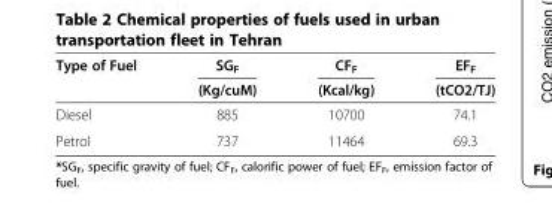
<table><thead><tr><td rowspan="2">Type of Fuel</td><td rowspan="2">SG<sub>F</sub> (Kg/cuM)</td><td rowspan="2">CF<sub>F</sub> (Kcal/kg)</td><td rowspan="2">EF<sub>F</sub> (tCO2/TJ)</td></tr><tr></tr></thead><tbody><tr><td>Diesel</td><td>885</td><td>10700</td><td>74.1</td></tr><tr><td>Petrol</td><td>737</td><td>11464</td><td>69.3</td></tr></tbody></table>